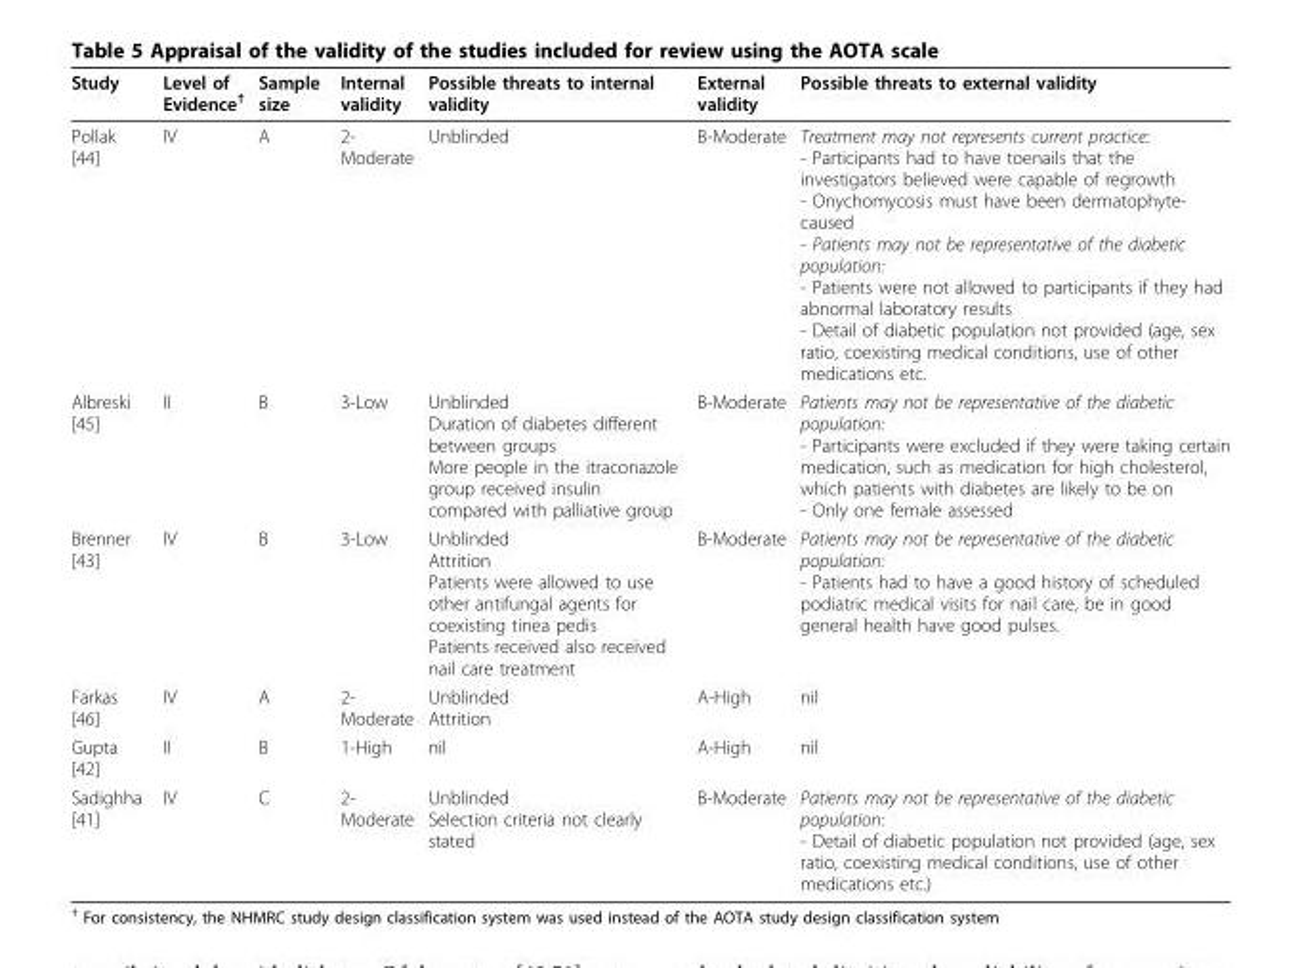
<table><thead><tr><td>Study</td><td>Level of Evidence<sup>†</sup></td><td>Sample size</td><td>Internal validity</td><td>Possible threats to internal validity</td><td>External validity</td><td>Possible threats to external validity</td></tr></thead><tbody><tr><td>Pollak [44]</td><td>IV</td><td>A</td><td>2- Moderate</td><td>Unblinded</td><td>B-Moderate</td><td>Treatment may not represents current practice: - Participants had to have toenails that the investigators believed were capable of regrowth - Onychomycosis must have been dermatophyte- caused - Patients may not be representative of the diabetic population: - Patients were not allowed to participants if they had abnormal laboratory results - Detail of diabetic population not provided (age, sex ratio, coexisting medical conditions, use of other medications etc.</td></tr><tr><td>Albreski [45]</td><td>II</td><td>B</td><td>3-Low</td><td>Unblinded Duration of diabetes different between groups More people in the itraconazole group received insulin compared with palliative group</td><td>B-Moderate</td><td>Patients may not be representative of the diabetic population: - Participants were excluded if they were taking certain medication, such as medication for high cholesterol, which patients with diabetes are likely to be on - Only one female assessed</td></tr><tr><td>Brenner [43]</td><td>IV</td><td>B</td><td>3-Low</td><td>Unblinded Attrition Patients were allowed to use other antifungal agents for coexisting tinea pedis Patients received also received nail care treatment</td><td>B-Moderate</td><td>Patients may not be representative of the diabetic population: - Patients had to have a good history of scheduled podiatric medical visits for nail care, be in good general health have good pulses.</td></tr><tr><td>Farkas [46]</td><td>IV</td><td>A</td><td>2- Moderate</td><td>Unblinded Attrition</td><td>A-High</td><td>nil</td></tr><tr><td>Gupta [42]</td><td>II</td><td>B</td><td>1-High</td><td>nil</td><td>A-High</td><td>nil</td></tr><tr><td>Sadighha [41]</td><td>IV</td><td>C</td><td>2- Moderate</td><td>Unblinded Selection criteria not clearly stated</td><td>B-Moderate</td><td>Patients may not be representative of the diabetic population: - Detail of diabetic population not provided (age, sex ratio, coexisting medical conditions, use of other medications etc.)</td></tr></tbody></table>